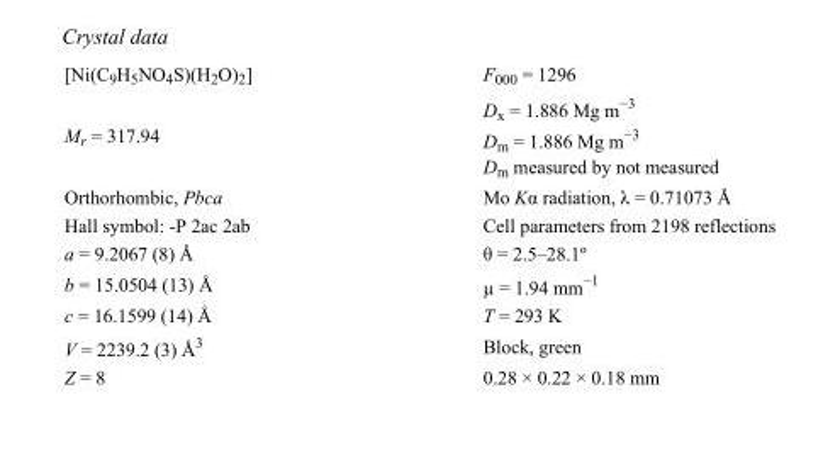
<table><tbody><tr><td>[Ni(C<sub>9</sub>H<sub>5</sub>NO<sub>4</sub>S)(H<sub>2</sub>O)<sub>2</sub>]</td><td>F000 = 1296</td></tr><tr><td>M<sub>r</sub> = 317.94</td><td>D<sub>x</sub> = 1.886 Mg m<sup>−3</sup> D<sub>m</sub> = 1.886 Mg m<sup>−3</sup> D<sub>m</sub> measured by not measured</td></tr><tr><td>Orthorhombic, Pbca</td><td>Mo Kα radiation, λ = 0.71073 Å</td></tr><tr><td>Hall symbol: -P 2ac 2ab</td><td>Cell parameters from 2198 reflections</td></tr><tr><td>a = 9.2067 (8) Å</td><td>θ = 2.5–28.1º</td></tr><tr><td>b = 15.0504 (13) Å</td><td>µ = 1.94 mm<sup>−1</sup></td></tr><tr><td>c = 16.1599 (14) Å</td><td>T = 293 K</td></tr><tr><td>V = 2239.2 (3) Å<sup>3</sup></td><td>Block, green</td></tr><tr><td>Z = 8</td><td>0.28 × 0.22 × 0.18 mm</td></tr></tbody></table>